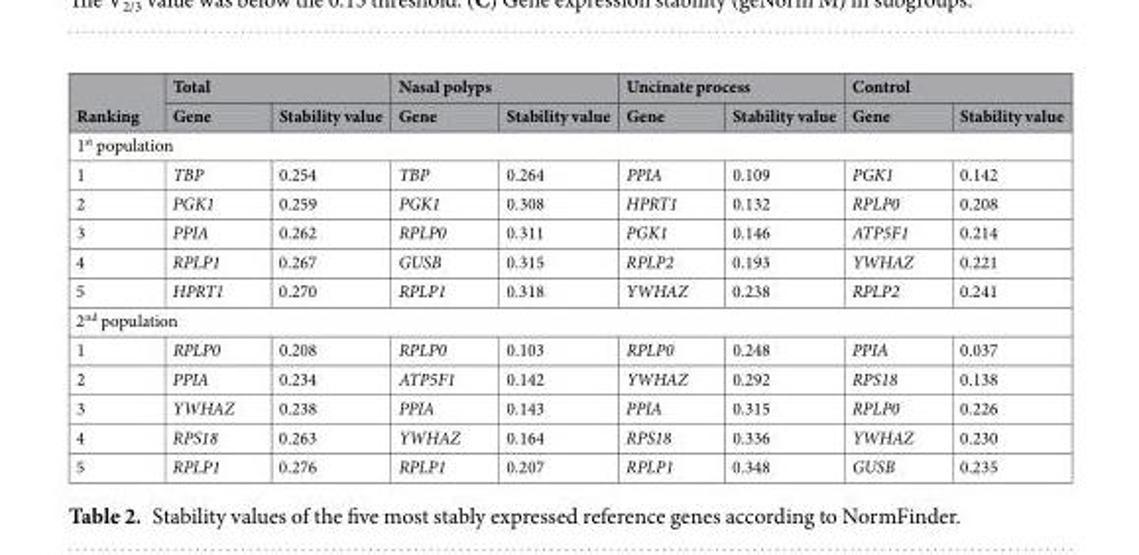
<table><thead><tr><td rowspan="2">Ranking</td><td colspan="2">Total</td><td colspan="2">Nasal polyps</td><td colspan="2">Uncinate process</td><td colspan="2">Control</td></tr><tr><td>Gene</td><td>Stability value</td><td>Gene</td><td>Stability value</td><td>Gene</td><td>Stability value</td><td>Gene</td><td>Stability value</td></tr></thead><tbody><tr><td colspan="9">1<sup>st</sup> population</td></tr><tr><td>1</td><td>TBP</td><td>0.254</td><td>TBP</td><td>0.264</td><td>PPIA</td><td>0.109</td><td>PGK1</td><td>0.142</td></tr><tr><td>2</td><td>PGK1</td><td>0.259</td><td>PGK1</td><td>0.308</td><td>HPRT1</td><td>0.132</td><td>RPLP0</td><td>0.208</td></tr><tr><td>3</td><td>PPIA</td><td>0.262</td><td>RPLP0</td><td>0.311</td><td>PGK1</td><td>0.146</td><td>ATP5F1</td><td>0.214</td></tr><tr><td>4</td><td>RPLP1</td><td>0.267</td><td>GUSB</td><td>0.315</td><td>RPLP2</td><td>0.193</td><td>YWHAZ</td><td>0.221</td></tr><tr><td>5</td><td>HPRT1</td><td>0.270</td><td>RPLP1</td><td>0.318</td><td>YWHAZ</td><td>0.238</td><td>RPLP2</td><td>0.241</td></tr><tr><td colspan="9">2<sup>nd</sup> population</td></tr><tr><td>1</td><td>RPLP0</td><td>0.208</td><td>RPLP0</td><td>0.103</td><td>RPLP0</td><td>0.248</td><td>PPIA</td><td>0.037</td></tr><tr><td>2</td><td>PPIA</td><td>0.234</td><td>ATP5F1</td><td>0.142</td><td>YWHAZ</td><td>0.292</td><td>RPS18</td><td>0.138</td></tr><tr><td>3</td><td>YWHAZ</td><td>0.238</td><td>PPIA</td><td>0.143</td><td>PPIA</td><td>0.315</td><td>RPLP0</td><td>0.226</td></tr><tr><td>4</td><td>RPS18</td><td>0.263</td><td>YWHAZ</td><td>0.164</td><td>RPS18</td><td>0.336</td><td>YWHAZ</td><td>0.230</td></tr><tr><td>5</td><td>RPLP1</td><td>0.276</td><td>RPLP1</td><td>0.207</td><td>RPLP1</td><td>0.348</td><td>GUSB</td><td>0.235</td></tr></tbody></table>